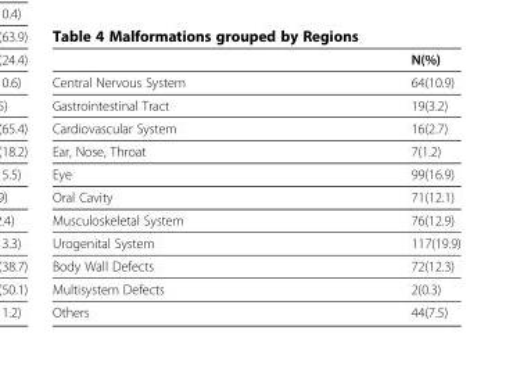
<table><thead><tr><td></td><td>N(%)</td></tr></thead><tbody><tr><td>Central Nervous System</td><td>64(10.9)</td></tr><tr><td>Gastrointestinal Tract</td><td>19(3.2)</td></tr><tr><td>Cardiovascular System</td><td>16(2.7)</td></tr><tr><td>Ear, Nose, Throat</td><td>7(1.2)</td></tr><tr><td>Eye</td><td>99(16.9)</td></tr><tr><td>Oral Cavity</td><td>71(12.1)</td></tr><tr><td>Musculoskeletal System</td><td>76(12.9)</td></tr><tr><td>Urogenital System</td><td>117(19.9)</td></tr><tr><td>Body Wall Defects</td><td>72(12.3)</td></tr><tr><td>Multisystem Defects</td><td>2(0.3)</td></tr><tr><td>Others</td><td>44(7.5)</td></tr></tbody></table>